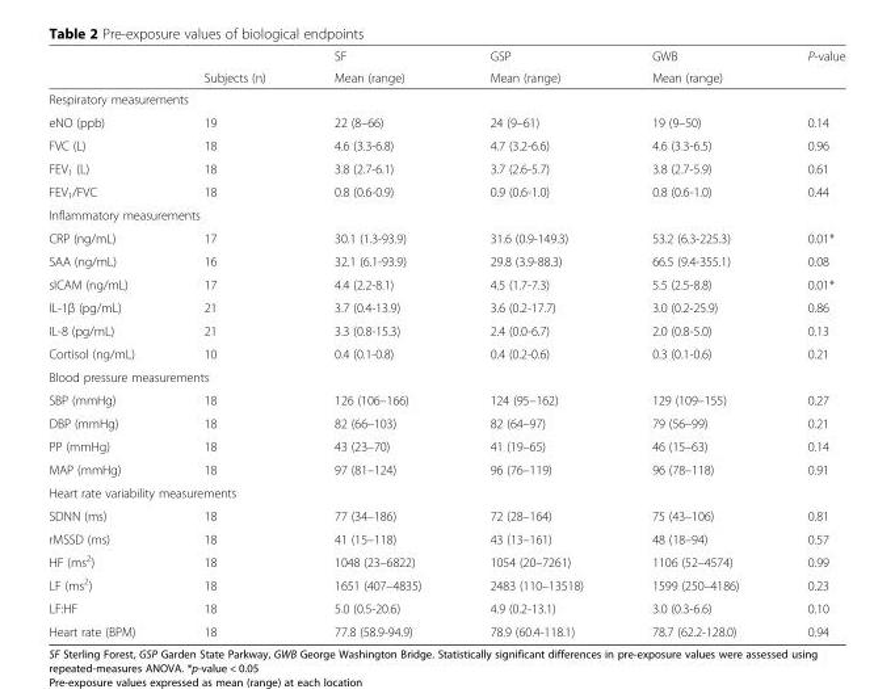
<table><thead><tr><td rowspan="2"></td><td rowspan="2">Subjects (n)</td><td rowspan="2">SF Mean (range)</td><td rowspan="2">GSP Mean (range)</td><td rowspan="2">GWB Mean (range)</td><td rowspan="2">P-value</td></tr><tr></tr></thead><tbody><tr><td colspan="6">Respiratory measurements</td></tr><tr><td>eNO (ppb)</td><td>19</td><td>22 (8–66)</td><td>24 (9–61)</td><td>19 (9–50)</td><td>0.14</td></tr><tr><td>FVC (L)</td><td>18</td><td>4.6 (3.3-6.8)</td><td>4.7 (3.2-6.6)</td><td>4.6 (3.3-6.5)</td><td>0.96</td></tr><tr><td>FEV<sub>1</sub> (L)</td><td>18</td><td>3.8 (2.7-6.1)</td><td>3.7 (2.6-5.7)</td><td>3.8 (2.7-5.9)</td><td>0.61</td></tr><tr><td>FEV<sub>1</sub>/FVC</td><td>18</td><td>0.8 (0.6-0.9)</td><td>0.9 (0.6-1.0)</td><td>0.8 (0.6-1.0)</td><td>0.44</td></tr><tr><td colspan="6">Inflammatory measurements</td></tr><tr><td>CRP (ng/mL)</td><td>17</td><td>30.1 (1.3-93.9)</td><td>31.6 (0.9-149.3)</td><td>53.2 (6.3-225.3)</td><td>0.01*</td></tr><tr><td>SAA (ng/mL)</td><td>16</td><td>32.1 (6.1-93.9)</td><td>29.8 (3.9-88.3)</td><td>66.5 (9.4-355.1)</td><td>0.08</td></tr><tr><td>sICAM (ng/mL)</td><td>17</td><td>4.4 (2.2-8.1)</td><td>4.5 (1.7-7.3)</td><td>5.5 (2.5-8.8)</td><td>0.01*</td></tr><tr><td>IL-1β (pg/mL)</td><td>21</td><td>3.7 (0.4-13.9)</td><td>3.6 (0.2-17.7)</td><td>3.0 (0.2-25.9)</td><td>0.86</td></tr><tr><td>IL-8 (pg/mL)</td><td>21</td><td>3.3 (0.8-15.3)</td><td>2.4 (0.0-6.7)</td><td>2.0 (0.8-5.0)</td><td>0.13</td></tr><tr><td>Cortisol (ng/mL)</td><td>10</td><td>0.4 (0.1-0.8)</td><td>0.4 (0.2-0.6)</td><td>0.3 (0.1-0.6)</td><td>0.21</td></tr><tr><td colspan="6">Blood pressure measurements</td></tr><tr><td>SBP (mmHg)</td><td>18</td><td>126 (106–166)</td><td>124 (95–162)</td><td>129 (109–155)</td><td>0.27</td></tr><tr><td>DBP (mmHg)</td><td>18</td><td>82 (66–103)</td><td>82 (64–97)</td><td>79 (56–99)</td><td>0.21</td></tr><tr><td>PP (mmHg)</td><td>18</td><td>43 (23–70)</td><td>41 (19–65)</td><td>46 (15–63)</td><td>0.14</td></tr><tr><td>MAP (mmHg)</td><td>18</td><td>97 (81–124)</td><td>96 (76–119)</td><td>96 (78–118)</td><td>0.91</td></tr><tr><td colspan="6">Heart rate variability measurements</td></tr><tr><td>SDNN (ms)</td><td>18</td><td>77 (34–186)</td><td>72 (28–164)</td><td>75 (43–106)</td><td>0.81</td></tr><tr><td>rMSSD (ms)</td><td>18</td><td>41 (15–118)</td><td>43 (13–161)</td><td>48 (18–94)</td><td>0.57</td></tr><tr><td>HF (ms<sup>2</sup>)</td><td>18</td><td>1048 (23–6822)</td><td>1054 (20–7261)</td><td>1106 (52–4574)</td><td>0.99</td></tr><tr><td>LF (ms<sup>2</sup>)</td><td>18</td><td>1651 (407–4835)</td><td>2483 (110–13518)</td><td>1599 (250–4186)</td><td>0.23</td></tr><tr><td>LF:HF</td><td>18</td><td>5.0 (0.5-20.6)</td><td>4.9 (0.2-13.1)</td><td>3.0 (0.3-6.6)</td><td>0.10</td></tr><tr><td>Heart rate (BPM)</td><td>18</td><td>77.8 (58.9-94.9)</td><td>78.9 (60.4-118.1)</td><td>78.7 (62.2-128.0)</td><td>0.94</td></tr></tbody></table>